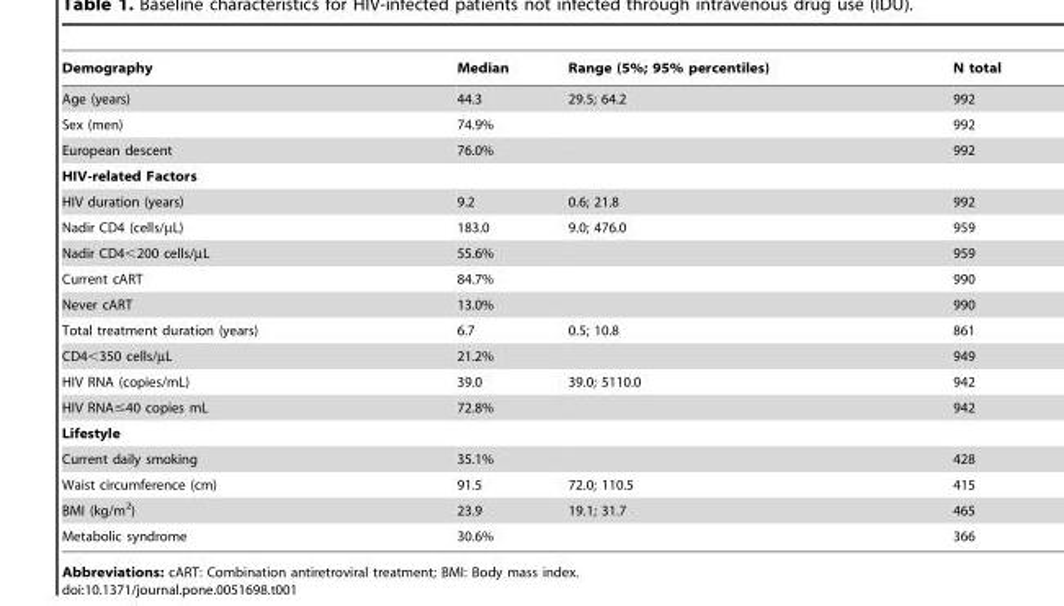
<table><thead><tr><td>Demography</td><td>Median</td><td>Range (5%; 95% percentiles)</td><td>N total</td></tr></thead><tbody><tr><td>Age (years)</td><td>44.3</td><td>29.5; 64.2</td><td>992</td></tr><tr><td>Sex (men)</td><td>74.9%</td><td></td><td>992</td></tr><tr><td>European descent</td><td>76.0%</td><td></td><td>992</td></tr><tr><td colspan="4">HIV-related Factors</td></tr><tr><td>HIV duration (years)</td><td>9.2</td><td>0.6; 21.8</td><td>992</td></tr><tr><td>Nadir CD4 (cells/µL)</td><td>183.0</td><td>9.0; 476.0</td><td>959</td></tr><tr><td>Nadir CD4&lt;200 cells/µL</td><td>55.6%</td><td></td><td>959</td></tr><tr><td>Current cART</td><td>84.7%</td><td></td><td>990</td></tr><tr><td>Never cART</td><td>13.0%</td><td></td><td>990</td></tr><tr><td>Total treatment duration (years)</td><td>6.7</td><td>0.5; 10.8</td><td>861</td></tr><tr><td>CD4&lt;350 cells/µL</td><td>21.2%</td><td></td><td>949</td></tr><tr><td>HIV RNA (copies/mL)</td><td>39.0</td><td>39.0; 5110.0</td><td>942</td></tr><tr><td>HIV RNA≤40 copies mL</td><td>72.8%</td><td></td><td>942</td></tr><tr><td colspan="4">Lifestyle</td></tr><tr><td>Current daily smoking</td><td>35.1%</td><td></td><td>428</td></tr><tr><td>Waist circumference (cm)</td><td>91.5</td><td>72.0; 110.5</td><td>415</td></tr><tr><td>BMI (kg/m<sup>2</sup>)</td><td>23.9</td><td>19.1; 31.7</td><td>465</td></tr><tr><td>Metabolic syndrome</td><td>30.6%</td><td></td><td>366</td></tr></tbody></table>